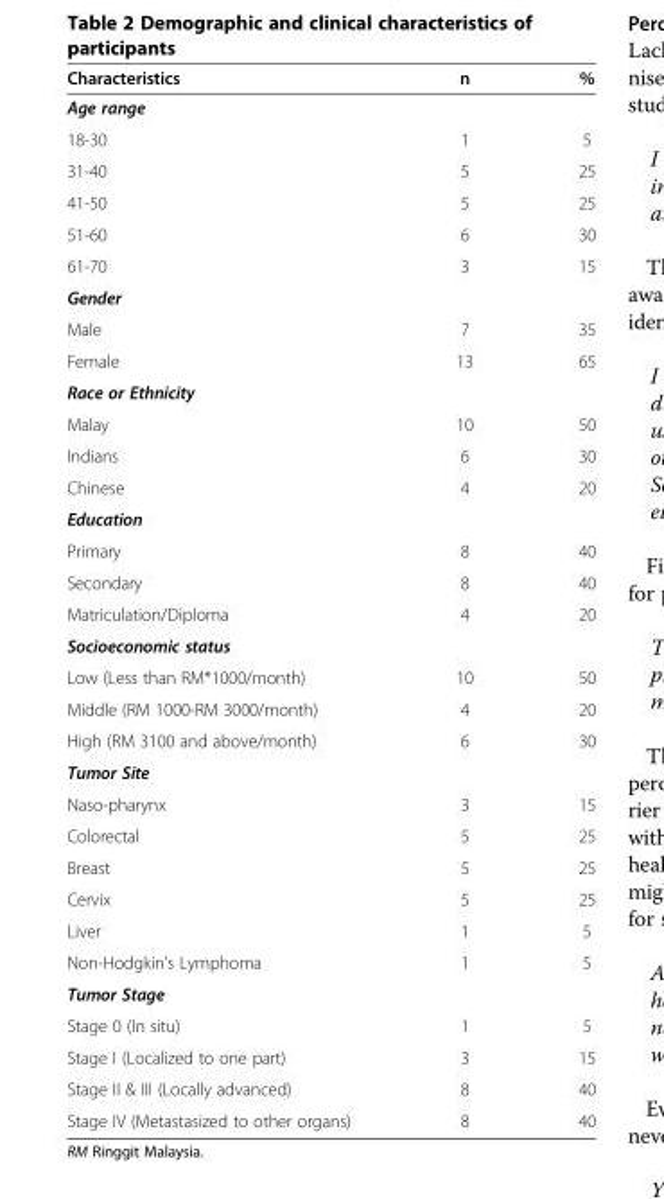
<table><thead><tr><td>Characteristics</td><td>n</td><td>%</td></tr></thead><tbody><tr><td colspan="3">Age range</td></tr><tr><td>18-30</td><td>1</td><td>5</td></tr><tr><td>31-40</td><td>5</td><td>25</td></tr><tr><td>41-50</td><td>5</td><td>25</td></tr><tr><td>51-60</td><td>6</td><td>30</td></tr><tr><td>61-70</td><td>3</td><td>15</td></tr><tr><td colspan="3">Gender</td></tr><tr><td>Male</td><td>7</td><td>35</td></tr><tr><td>Female</td><td>13</td><td>65</td></tr><tr><td colspan="3">Race or Ethnicity</td></tr><tr><td>Malay</td><td>10</td><td>50</td></tr><tr><td>Indians</td><td>6</td><td>30</td></tr><tr><td>Chinese</td><td>4</td><td>20</td></tr><tr><td colspan="3">Education</td></tr><tr><td>Primary</td><td>8</td><td>40</td></tr><tr><td>Secondary</td><td>8</td><td>40</td></tr><tr><td>Matriculation/Diploma</td><td>4</td><td>20</td></tr><tr><td colspan="3">Socioeconomic status</td></tr><tr><td>Low (Less than RM*1000/month)</td><td>10</td><td>50</td></tr><tr><td>Middle (RM 1000-RM 3000/month)</td><td>4</td><td>20</td></tr><tr><td>High (RM 3100 and above/month)</td><td>6</td><td>30</td></tr><tr><td colspan="3">Tumor Site</td></tr><tr><td>Naso-pharynx</td><td>3</td><td>15</td></tr><tr><td>Colorectal</td><td>5</td><td>25</td></tr><tr><td>Breast</td><td>5</td><td>25</td></tr><tr><td>Cervix</td><td>5</td><td>25</td></tr><tr><td>Liver</td><td>1</td><td>5</td></tr><tr><td>Non-Hodgkin’s Lymphoma</td><td>1</td><td>5</td></tr><tr><td colspan="3">Tumor Stage</td></tr><tr><td>Stage 0 (In situ)</td><td>1</td><td>5</td></tr><tr><td>Stage I (Localized to one part)</td><td>3</td><td>15</td></tr><tr><td>Stage II &amp; III (Locally advanced)</td><td>8</td><td>40</td></tr><tr><td>Stage IV (Metastasized to other organs)</td><td>8</td><td>40</td></tr></tbody></table>